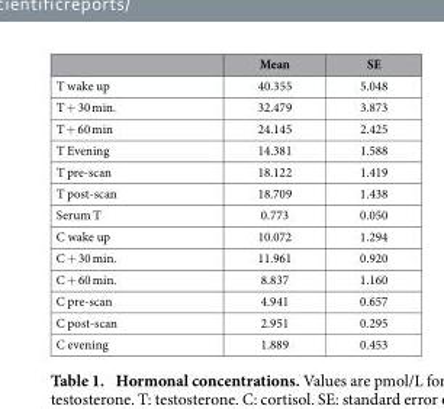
<table><thead><tr><td></td><td>Mean</td><td>SE</td></tr></thead><tbody><tr><td>T wake up</td><td>40.355</td><td>5.048</td></tr><tr><td>T + 30 min.</td><td>32.479</td><td>3.873</td></tr><tr><td>T + 60 min</td><td>24.145</td><td>2.425</td></tr><tr><td>T Evening</td><td>14.381</td><td>1.588</td></tr><tr><td>T pre-scan</td><td>18.122</td><td>1.419</td></tr><tr><td>T post-scan</td><td>18.709</td><td>1.438</td></tr><tr><td>Serum T</td><td>0.773</td><td>0.050</td></tr><tr><td>C wake up</td><td>10.072</td><td>1.294</td></tr><tr><td>C + 30 min.</td><td>11.961</td><td>0.920</td></tr><tr><td>C + 60 min.</td><td>8.837</td><td>1.160</td></tr><tr><td>C pre-scan</td><td>4.941</td><td>0.657</td></tr><tr><td>C post-scan</td><td>2.951</td><td>0.295</td></tr><tr><td>C evening</td><td>1.889</td><td>0.453</td></tr></tbody></table>